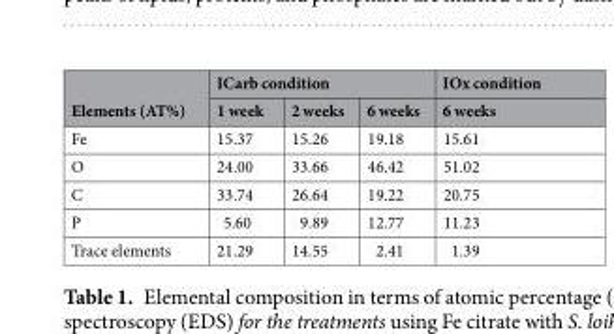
<table><thead><tr><td rowspan="2">Elements (AT%)</td><td colspan="3">ICarb condition</td><td rowspan="2">IOx condition 6 weeks</td></tr><tr><td>1 week</td><td>2 weeks</td><td>6 weeks</td></tr></thead><tbody><tr><td>Fe</td><td>15.37</td><td>15.26</td><td>19.18</td><td>15.61</td></tr><tr><td>O</td><td>24.00</td><td>33.66</td><td>46.42</td><td>51.02</td></tr><tr><td>C</td><td>33.74</td><td>26.64</td><td>19.22</td><td>20.75</td></tr><tr><td>P</td><td>5.60</td><td>9.89</td><td>12.77</td><td>11.23</td></tr><tr><td>Trace elements</td><td>21.29</td><td>14.55</td><td>2.41</td><td>1.39</td></tr></tbody></table>